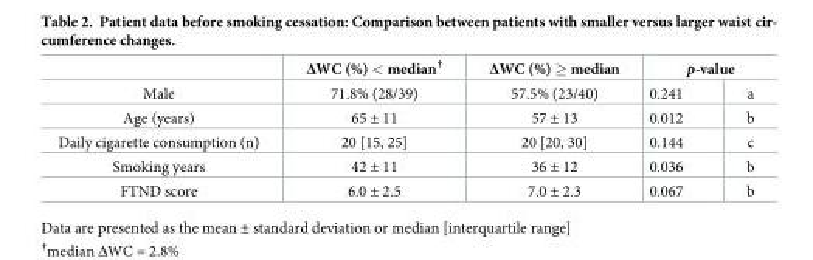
<table><thead><tr><td rowspan="2">Male</td><td rowspan="2">ΔWC (%) &lt; median<sup>†</sup> 71.8% (28/39)</td><td rowspan="2">ΔWC (%) ≥ median 57.5% (23/40)</td><td colspan="2">p-value</td></tr><tr><td>0.241</td><td>a</td></tr></thead><tbody><tr><td>Age (years)</td><td>65 ± 11</td><td>57 ± 13</td><td>0.012</td><td>b</td></tr><tr><td>Daily cigarette consumption (n)</td><td>20 [15, 25]</td><td>20 [20, 30]</td><td>0.144</td><td>c</td></tr><tr><td>Smoking years</td><td>42 ± 11</td><td>36 ± 12</td><td>0.036</td><td>b</td></tr><tr><td>FTND score</td><td>6.0 ± 2.5</td><td>7.0 ± 2.3</td><td>0.067</td><td>b</td></tr></tbody></table>